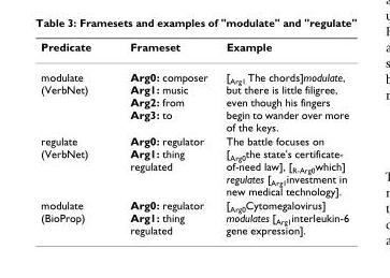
<table><thead><tr><td>Predicate</td><td>Frameset</td><td>Example</td></tr></thead><tbody><tr><td>modulate (VerbNet)</td><td>Arg0: composer Arg1: music Arg2: from Arg3: to</td><td>[<sub>Arg1</sub> The chords]modulate, but there is little filigree, even though his fingers begin to wander over more of the keys.</td></tr><tr><td>regulate (VerbNet)</td><td>Arg0: regulator Arg1: thing regulated</td><td>The battle focuses on [<sub>Arg0</sub>the state&#x27;s certificate- of-need law], [<sub>R-Arg0</sub>which] regulates [<sub>Arg1</sub>investment in new medical technology].</td></tr><tr><td>modulate (BioProp)</td><td>Arg0: regulator Arg1: thing regulated</td><td>[<sub>Arg0</sub>Cytomegalovirus] modulates [<sub>Arg1</sub>interleukin-6 gene expression].</td></tr></tbody></table>